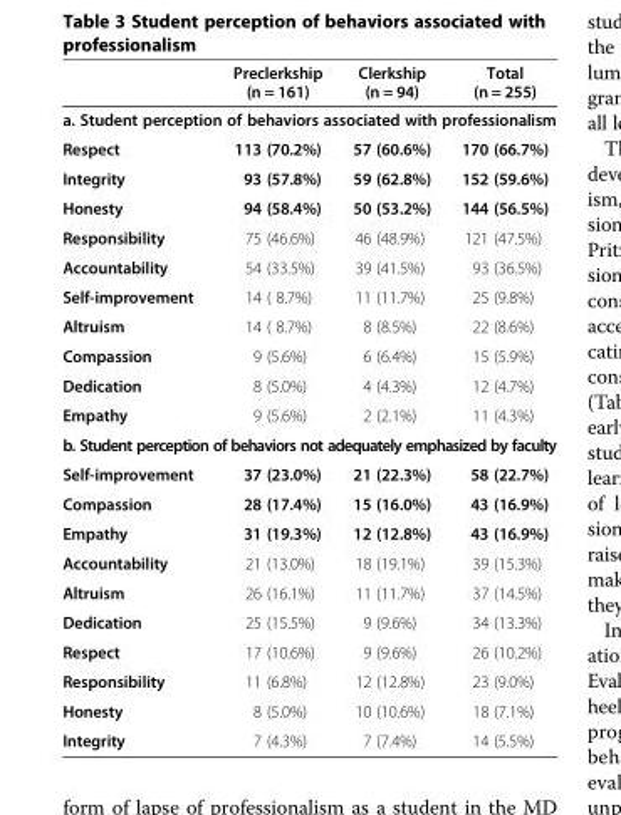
<table><thead><tr><td></td><td>Preclerkship (n = 161)</td><td>Clerkship (n = 94)</td><td>Total (n = 255)</td></tr></thead><tbody><tr><td colspan="4">a. Student perception of behaviors associated with professionalism</td></tr><tr><td>Respect</td><td>113 (70.2%)</td><td>57 (60.6%)</td><td>170 (66.7%)</td></tr><tr><td>Integrity</td><td>93 (57.8%)</td><td>59 (62.8%)</td><td>152 (59.6%)</td></tr><tr><td>Honesty</td><td>94 (58.4%)</td><td>50 (53.2%)</td><td>144 (56.5%)</td></tr><tr><td>Responsibility</td><td>75 (46.6%)</td><td>46 (48.9%)</td><td>121 (47.5%)</td></tr><tr><td>Accountability</td><td>54 (33.5%)</td><td>39 (41.5%)</td><td>93 (36.5%)</td></tr><tr><td>Self-improvement</td><td>14 ( 8.7%)</td><td>11 (11.7%)</td><td>25 (9.8%)</td></tr><tr><td>Altruism</td><td>14 ( 8.7%)</td><td>8 (8.5%)</td><td>22 (8.6%)</td></tr><tr><td>Compassion</td><td>9 (5.6%)</td><td>6 (6.4%)</td><td>15 (5.9%)</td></tr><tr><td>Dedication</td><td>8 (5.0%)</td><td>4 (4.3%)</td><td>12 (4.7%)</td></tr><tr><td>Empathy</td><td>9 (5.6%)</td><td>2 (2.1%)</td><td>11 (4.3%)</td></tr><tr><td colspan="4">b. Student perception of behaviors not adequately emphasized by faculty</td></tr><tr><td>Self-improvement</td><td>37 (23.0%)</td><td>21 (22.3%)</td><td>58 (22.7%)</td></tr><tr><td>Compassion</td><td>28 (17.4%)</td><td>15 (16.0%)</td><td>43 (16.9%)</td></tr><tr><td>Empathy</td><td>31 (19.3%)</td><td>12 (12.8%)</td><td>43 (16.9%)</td></tr><tr><td>Accountability</td><td>21 (13.0%)</td><td>18 (19.1%)</td><td>39 (15.3%)</td></tr><tr><td>Altruism</td><td>26 (16.1%)</td><td>11 (11.7%)</td><td>37 (14.5%)</td></tr><tr><td>Dedication</td><td>25 (15.5%)</td><td>9 (9.6%)</td><td>34 (13.3%)</td></tr><tr><td>Respect</td><td>17 (10.6%)</td><td>9 (9.6%)</td><td>26 (10.2%)</td></tr><tr><td>Responsibility</td><td>11 (6.8%)</td><td>12 (12.8%)</td><td>23 (9.0%)</td></tr><tr><td>Honesty</td><td>8 (5.0%)</td><td>10 (10.6%)</td><td>18 (7.1%)</td></tr><tr><td>Integrity</td><td>7 (4.3%)</td><td>7 (7.4%)</td><td>14 (5.5%)</td></tr></tbody></table>